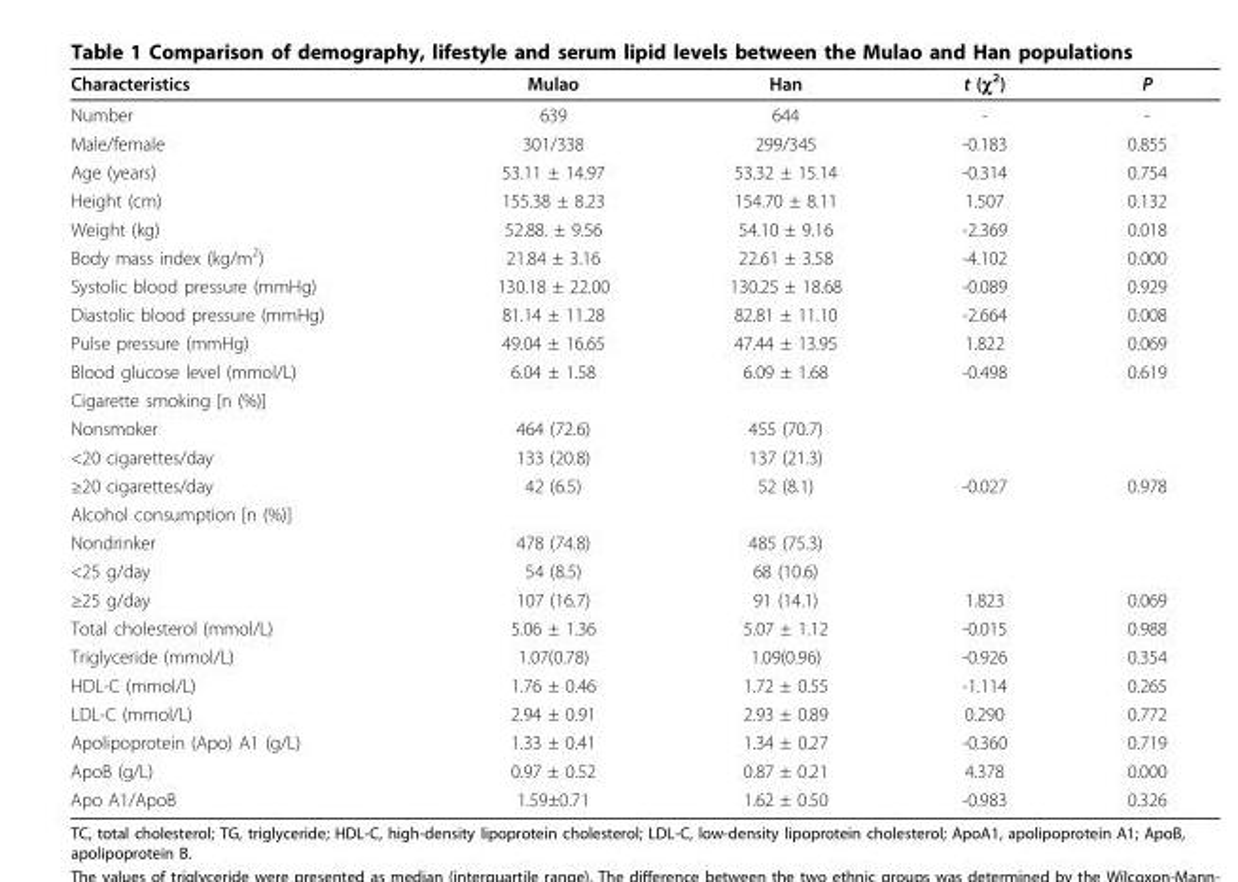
<table><thead><tr><td>Characteristics</td><td>Mulao</td><td>Han</td><td>t (χ<sup>2</sup>)</td><td>P</td></tr></thead><tbody><tr><td>Number</td><td>639</td><td>644</td><td>-</td><td>-</td></tr><tr><td>Male/female</td><td>301/338</td><td>299/345</td><td>-0.183</td><td>0.855</td></tr><tr><td>Age (years)</td><td>53.11 ± 14.97</td><td>53.32 ± 15.14</td><td>-0.314</td><td>0.754</td></tr><tr><td>Height (cm)</td><td>155.38 ± 8.23</td><td>154.70 ± 8.11</td><td>1.507</td><td>0.132</td></tr><tr><td>Weight (kg)</td><td>52.88. ± 9.56</td><td>54.10 ± 9.16</td><td>-2.369</td><td>0.018</td></tr><tr><td>Body mass index (kg/m<sup>2</sup>)</td><td>21.84 ± 3.16</td><td>22.61 ± 3.58</td><td>-4.102</td><td>0.000</td></tr><tr><td>Systolic blood pressure (mmHg)</td><td>130.18 ± 22.00</td><td>130.25 ± 18.68</td><td>-0.089</td><td>0.929</td></tr><tr><td>Diastolic blood pressure (mmHg)</td><td>81.14 ± 11.28</td><td>82.81 ± 11.10</td><td>-2.664</td><td>0.008</td></tr><tr><td>Pulse pressure (mmHg)</td><td>49.04 ± 16.65</td><td>47.44 ± 13.95</td><td>1.822</td><td>0.069</td></tr><tr><td>Blood glucose level (mmol/L)</td><td>6.04 ± 1.58</td><td>6.09 ± 1.68</td><td>-0.498</td><td>0.619</td></tr><tr><td colspan="5">Cigarette smoking [n (%)]</td></tr><tr><td>Nonsmoker</td><td>464 (72.6)</td><td>455 (70.7)</td><td></td><td></td></tr><tr><td>&lt;20 cigarettes/day</td><td>133 (20.8)</td><td>137 (21.3)</td><td></td><td></td></tr><tr><td>≥20 cigarettes/day</td><td>42 (6.5)</td><td>52 (8.1)</td><td>-0.027</td><td>0.978</td></tr><tr><td colspan="5">Alcohol consumption [n (%)]</td></tr><tr><td>Nondrinker</td><td>478 (74.8)</td><td>485 (75.3)</td><td></td><td></td></tr><tr><td>&lt;25 g/day</td><td>54 (8.5)</td><td>68 (10.6)</td><td></td><td></td></tr><tr><td>≥25 g/day</td><td>107 (16.7)</td><td>91 (14.1)</td><td>1.823</td><td>0.069</td></tr><tr><td>Total cholesterol (mmol/L)</td><td>5.06 ± 1.36</td><td>5.07 ± 1.12</td><td>-0.015</td><td>0.988</td></tr><tr><td>Triglyceride (mmol/L)</td><td>1.07(0.78)</td><td>1.09(0.96)</td><td>-0.926</td><td>0.354</td></tr><tr><td>HDL-C (mmol/L)</td><td>1.76 ± 0.46</td><td>1.72 ± 0.55</td><td>-1.114</td><td>0.265</td></tr><tr><td>LDL-C (mmol/L)</td><td>2.94 ± 0.91</td><td>2.93 ± 0.89</td><td>0.290</td><td>0.772</td></tr><tr><td>Apolipoprotein (Apo) A1 (g/L)</td><td>1.33 ± 0.41</td><td>1.34 ± 0.27</td><td>-0.360</td><td>0.719</td></tr><tr><td>ApoB (g/L)</td><td>0.97 ± 0.52</td><td>0.87 ± 0.21</td><td>4.378</td><td>0.000</td></tr><tr><td>Apo A1/ApoB</td><td>1.59±0.71</td><td>1.62 ± 0.50</td><td>-0.983</td><td>0.326</td></tr></tbody></table>